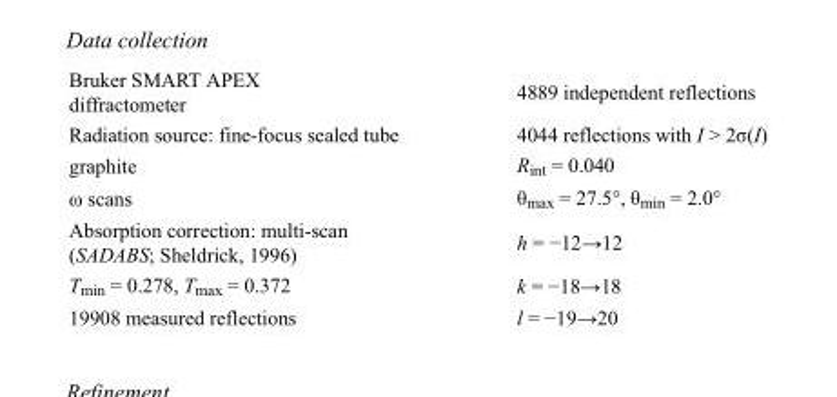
<table><tbody><tr><td>Bruker SMART APEX diffractometer</td><td>4889 independent reflections</td></tr><tr><td>Radiation source: fine-focus sealed tube</td><td>4044 reflections with I &gt; 2σ(I)</td></tr><tr><td>graphite</td><td>R<sub>int</sub> = 0.040</td></tr><tr><td>ω scans</td><td>θ<sub>max</sub> = 27.5°, θ<sub>min</sub> = 2.0°</td></tr><tr><td>Absorption correction: multi-scan (SADABS; Sheldrick, 1996)</td><td>h = −12→12</td></tr><tr><td>T<sub>min</sub> = 0.278, T<sub>max</sub> = 0.372</td><td>k = −18→18</td></tr><tr><td>19908 measured reflections</td><td>l = −19→20</td></tr></tbody></table>